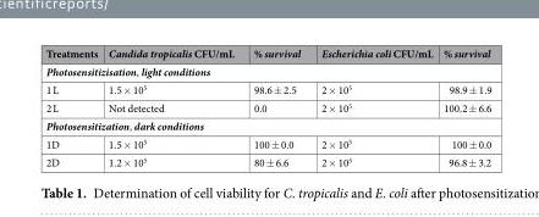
<table><thead><tr><td>Treatments</td><td>Candida tropicalis CFU/mL</td><td>% survival</td><td>Escherichia coli CFU/mL</td><td>% survival</td></tr></thead><tbody><tr><td colspan="5">Photosensitizisation, light conditions</td></tr><tr><td>1 L</td><td>1.5 × 10<sup>5</sup></td><td>98.6 ± 2.5</td><td>2 × 10<sup>5</sup></td><td>98.9 ± 1.9</td></tr><tr><td>2 L</td><td>Not detected</td><td>0.0</td><td>2 × 10<sup>5</sup></td><td>100.2 ± 6.6</td></tr><tr><td colspan="5">Photosensitization, dark conditions</td></tr><tr><td>1D</td><td>1.5 × 10<sup>5</sup></td><td>100 ± 0.0</td><td>2 × 10<sup>5</sup></td><td>100 ± 0.0</td></tr><tr><td>2D</td><td>1.2 × 10<sup>5</sup></td><td>80 ± 6.6</td><td>2 × 10<sup>5</sup></td><td>96.8 ± 3.2</td></tr></tbody></table>